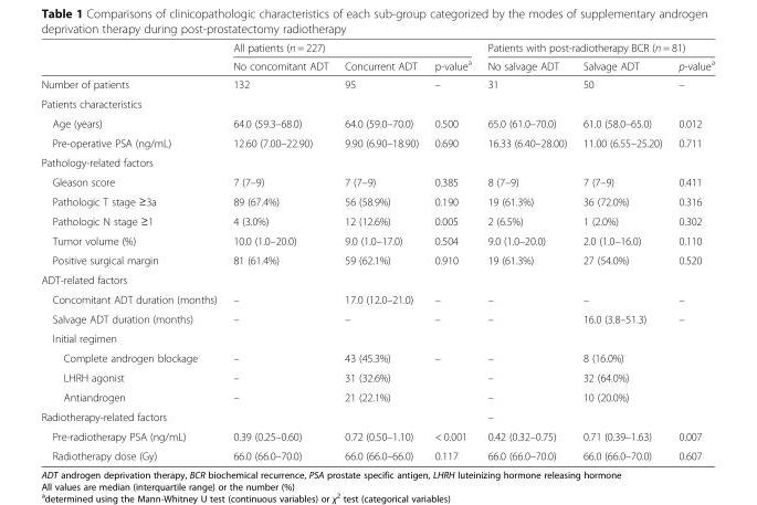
<table><thead><tr><td rowspan="2"></td><td colspan="3">All patients (n = 227)</td><td colspan="3">Patients with post-radiotherapy BCR (n = 81)</td></tr><tr><td>No concomitant ADT</td><td>Concurrent ADT</td><td>p-value<sup>a</sup></td><td>No salvage ADT</td><td>Salvage ADT</td><td>p-value<sup>a</sup></td></tr></thead><tbody><tr><td>Number of patients</td><td>132</td><td>95</td><td>–</td><td>31</td><td>50</td><td>–</td></tr><tr><td colspan="7">Patients characteristics</td></tr><tr><td>Age (years)</td><td>64.0 (59.3–68.0)</td><td>64.0 (59.0–70.0)</td><td>0.500</td><td>65.0 (61.0–70.0)</td><td>61.0 (58.0–65.0)</td><td>0.012</td></tr><tr><td>Pre-operative PSA (ng/mL)</td><td>12.60 (7.00–22.90)</td><td>9.90 (6.90–18.90)</td><td>0.690</td><td>16.33 (6.40–28.00)</td><td>11.00 (6.55–25.20)</td><td>0.711</td></tr><tr><td colspan="7">Pathology-related factors</td></tr><tr><td>Gleason score</td><td>7 (7–9)</td><td>7 (7–9)</td><td>0.385</td><td>8 (7–9)</td><td>7 (7–9)</td><td>0.411</td></tr><tr><td>Pathologic T stage ≥3a</td><td>89 (67.4%)</td><td>56 (58.9%)</td><td>0.190</td><td>19 (61.3%)</td><td>36 (72.0%)</td><td>0.316</td></tr><tr><td>Pathologic N stage ≥1</td><td>4 (3.0%)</td><td>12 (12.6%)</td><td>0.005</td><td>2 (6.5%)</td><td>1 (2.0%)</td><td>0.302</td></tr><tr><td>Tumor volume (%)</td><td>10.0 (1.0–20.0)</td><td>9.0 (1.0–17.0)</td><td>0.504</td><td>9.0 (1.0–20.0)</td><td>2.0 (1.0–16.0)</td><td>0.110</td></tr><tr><td>Positive surgical margin</td><td>81 (61.4%)</td><td>59 (62.1%)</td><td>0.910</td><td>19 (61.3%)</td><td>27 (54.0%)</td><td>0.520</td></tr><tr><td colspan="7">ADT-related factors</td></tr><tr><td>Concomitant ADT duration (months)</td><td>–</td><td>17.0 (12.0–21.0)</td><td>–</td><td>–</td><td>–</td><td>–</td></tr><tr><td>Salvage ADT duration (months)</td><td>–</td><td>–</td><td>–</td><td>–</td><td>16.0 (3.8–51.3)</td><td>–</td></tr><tr><td colspan="7">Initial regimen</td></tr><tr><td>Complete androgen blockage</td><td>–</td><td>43 (45.3%)</td><td rowspan="3">–</td><td>–</td><td>8 (16.0%)</td><td></td></tr><tr><td>LHRH agonist</td><td>–</td><td>31 (32.6%)</td><td>–</td><td>32 (64.0%)</td><td></td></tr><tr><td>Antiandrogen</td><td>–</td><td>21 (22.1%)</td><td>–</td><td>10 (20.0%)</td><td></td></tr><tr><td>Radiotherapy-related factors</td><td></td><td></td><td></td><td>–</td><td></td><td></td></tr><tr><td>Pre-radiotherapy PSA (ng/mL)</td><td>0.39 (0.25–0.60)</td><td>0.72 (0.50–1.10)</td><td>&lt; 0.001</td><td>0.42 (0.32–0.75)</td><td>0.71 (0.39–1.63)</td><td>0.007</td></tr><tr><td>Radiotherapy dose (Gy)</td><td>66.0 (66.0–70.0)</td><td>66.0 (66.0–66.0)</td><td>0.117</td><td>66.0 (66.0–70.0)</td><td>66.0 (66.0–70.0)</td><td>0.607</td></tr></tbody></table>